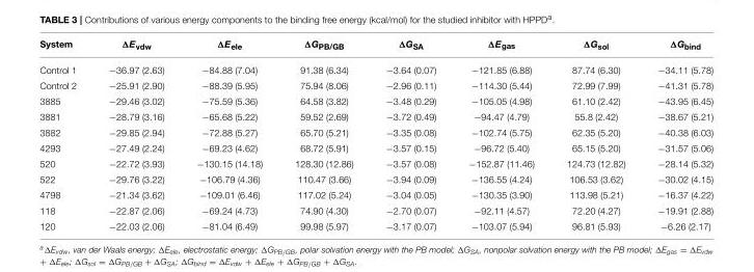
<table><thead><tr><td>System</td><td>ΔE<sub>vdw</sub></td><td>ΔE<sub>ele</sub></td><td>ΔG<sub>PB/GB</sub></td><td>ΔG<sub>SA</sub></td><td>ΔE<sub>gas</sub></td><td>ΔG<sub>sol</sub></td><td>ΔG<sub>bind</sub></td></tr></thead><tbody><tr><td>Control 1</td><td>−36.97 (2.63)</td><td>−84.88 (7.04)</td><td>91.38 (6.34)</td><td>−3.64 (0.07)</td><td>−121.85 (6.88)</td><td>87.74 (6.30)</td><td>−34.11 (5.78)</td></tr><tr><td>Control 2</td><td>−25.91 (2.90)</td><td>−88.39 (5.95)</td><td>75.94 (8.06)</td><td>−2.96 (0.11)</td><td>−114.30 (5.44)</td><td>72.99 (7.99)</td><td>−41.31 (5.78)</td></tr><tr><td>3885</td><td>−29.46 (3.02)</td><td>−75.59 (5.36)</td><td>64.58 (3.82)</td><td>−3.48 (0.29)</td><td>−105.05 (4.98)</td><td>61.10 (2.42)</td><td>−43.95 (6.45)</td></tr><tr><td>3881</td><td>−28.79 (3.16)</td><td>−65.68 (5.22)</td><td>59.52 (2.69)</td><td>−3.72 (0.49)</td><td>−94.47 (4.79)</td><td>55.8 (2.42)</td><td>−38.67 (5.21)</td></tr><tr><td>3882</td><td>−29.85 (2.94)</td><td>−72.88 (5.27)</td><td>65.70 (5.21)</td><td>−3.35 (0.08)</td><td>−102.74 (5.75)</td><td>62.35 (5.20)</td><td>−40.38 (6.03)</td></tr><tr><td>4293</td><td>−27.49 (2.24)</td><td>−69.23 (4.62)</td><td>68.72 (5.91)</td><td>−3.57 (0.15)</td><td>−96.72 (5.40)</td><td>65.15 (5.20)</td><td>−31.57 (5.06)</td></tr><tr><td>520</td><td>−22.72 (3.93)</td><td>−130.15 (14.18)</td><td>128.30 (12.86)</td><td>−3.57 (0.08)</td><td>−152.87 (11.46)</td><td>124.73 (12.82)</td><td>−28.14 (5.32)</td></tr><tr><td>522</td><td>−29.76 (3.22)</td><td>−106.79 (4.36)</td><td>110.47 (3.66)</td><td>−3.94 (0.09)</td><td>−136.55 (4.24)</td><td>106.53 (3.62)</td><td>−30.02 (4.15)</td></tr><tr><td>4798</td><td>−21.34 (3.62)</td><td>−109.01 (6.46)</td><td>117.02 (5.24)</td><td>−3.04 (0.05)</td><td>−130.35 (3.90)</td><td>113.98 (5.21)</td><td>−16.37 (4.22)</td></tr><tr><td>118</td><td>−22.87 (2.06)</td><td>−69.24 (4.73)</td><td>74.90 (4.30)</td><td>−2.70 (0.07)</td><td>−92.11 (4.57)</td><td>72.20 (4.27)</td><td>−19.91 (2.88)</td></tr><tr><td>120</td><td>−22.03 (2.06)</td><td>−81.04 (6.49)</td><td>99.98 (5.97)</td><td>−3.17 (0.07)</td><td>−103.07 (5.94)</td><td>96.81 (5.93)</td><td>−6.26 (2.17)</td></tr></tbody></table>